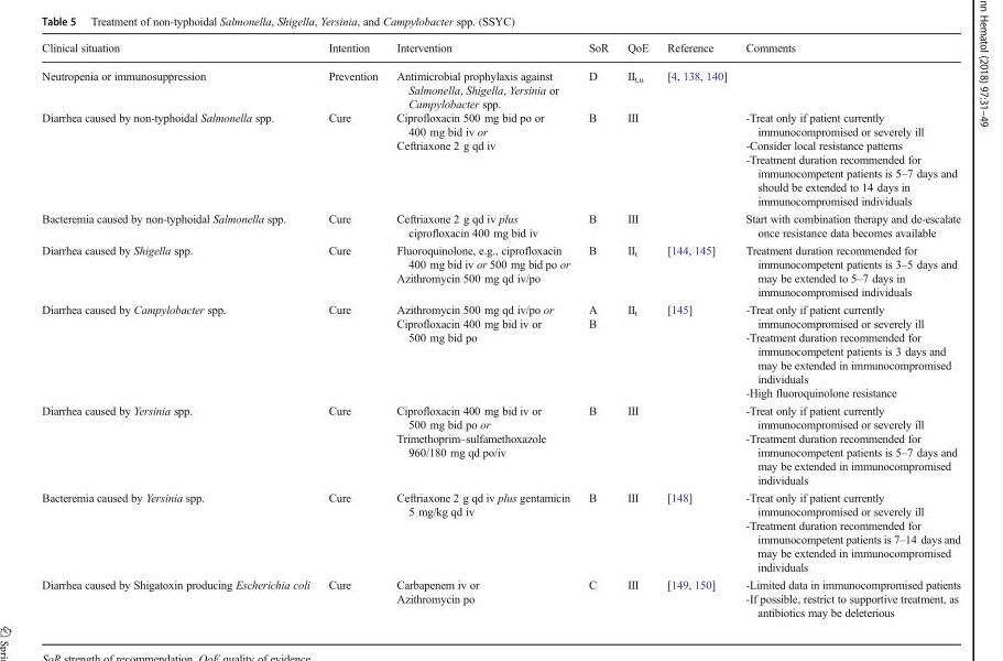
<table><thead><tr><td>Clinical situation</td><td>Intention</td><td>Intervention</td><td>SoR</td><td>QoE</td><td>Reference</td><td>Comments</td></tr></thead><tbody><tr><td>Neutropenia or immunosuppression</td><td>Prevention</td><td>Antimicrobial prophylaxis against Salmonella, Shigella, Yersinia or Campylobacter spp.</td><td>D</td><td>II<sub>t,u</sub></td><td>[4, 138, 140]</td><td></td></tr><tr><td rowspan="2">Diarrhea caused by non-typhoidal Salmonella spp.</td><td rowspan="2">Cure</td><td>Ciprofloxacin 500 mg bid po or 400 mg bid iv or</td><td rowspan="2">B</td><td rowspan="2">III</td><td rowspan="2"></td><td rowspan="2">-Treat only if patient currently immunocompromised or severely ill -Consider local resistance patterns -Treatment duration recommended for immunocompetent patients is 5–7 days and should be extended to 14 days in immunocompromised individuals</td></tr><tr><td>Ceftriaxone 2 g qd iv</td></tr><tr><td>Bacteremia caused by non-typhoidal Salmonella spp.</td><td>Cure</td><td>Ceftriaxone 2 g qd iv plus ciprofloxacin 400 mg bid iv</td><td>B</td><td>III</td><td></td><td>Start with combination therapy and de-escalate once resistance data becomes available</td></tr><tr><td rowspan="2">Diarrhea caused by Shigella spp.</td><td rowspan="2">Cure</td><td>Fluoroquinolone, e.g., ciprofloxacin 400 mg bid iv or 500 mg bid po or</td><td rowspan="2">B</td><td rowspan="2">II<sub>t</sub></td><td rowspan="2">[144, 145]</td><td rowspan="2">Treatment duration recommended for immunocompetent patients is 3–5 days and may be extended to 5–7 days in immunocompromised individuals</td></tr><tr><td>Azithromycin 500 mg qd iv/po</td></tr><tr><td rowspan="2">Diarrhea caused by Campylobacter spp.</td><td rowspan="2">Cure</td><td>Azithromycin 500 mg qd iv/po or</td><td rowspan="2">A B</td><td rowspan="2">II<sub>t</sub></td><td rowspan="2">[145]</td><td rowspan="2">-Treat only if patient currently immunocompromised or severely ill -Treatment duration recommended for immunocompetent patients is 3 days and may be extended in immunocompromised individuals -High fluoroquinolone resistance</td></tr><tr><td>Ciprofloxacin 400 mg bid iv or 500 mg bid po</td></tr><tr><td>Diarrhea caused by Yersinia spp.</td><td>Cure</td><td>Ciprofloxacin 400 mg bid iv or 500 mg bid po or Trimethoprim–sulfamethoxazole 960/180 mg qd po/iv</td><td>B</td><td>III</td><td></td><td>-Treat only if patient currently immunocompromised or severely ill -Treatment duration recommended for immunocompetent patients is 5–7 days and may be extended in immunocompromised individuals</td></tr><tr><td>Bacteremia caused by Yersinia spp.</td><td>Cure</td><td>Ceftriaxone 2 g qd iv plus gentamicin 5 mg/kg qd iv</td><td>B</td><td>III</td><td>[148]</td><td>-Treat only if patient currently immunocompromised or severely ill -Treatment duration recommended for immunocompetent patients is 7–14 days and may be extended in immunocompromised individuals</td></tr><tr><td rowspan="2">Diarrhea caused by Shigatoxin producing Escherichia coli</td><td rowspan="2">Cure</td><td>Carbapenem iv or</td><td rowspan="2">C</td><td rowspan="2">III</td><td rowspan="2">[149, 150]</td><td rowspan="2">-Limited data in immunocompromised patients -If possible, restrict to supportive treatment, as antibiotics may be deleterious</td></tr><tr><td>Azithromycin po</td></tr></tbody></table>